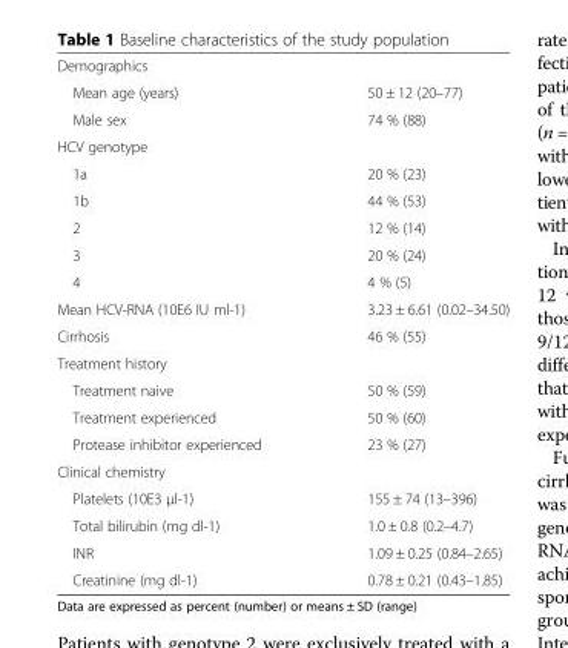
<table><tbody><tr><td colspan="2">Demographics</td></tr><tr><td>Mean age (years)</td><td>50 ± 12 (20–77)</td></tr><tr><td>Male sex</td><td>74 % (88)</td></tr><tr><td colspan="2">HCV genotype</td></tr><tr><td>1a</td><td>20 % (23)</td></tr><tr><td>1b</td><td>44 % (53)</td></tr><tr><td>2</td><td>12 % (14)</td></tr><tr><td>3</td><td>20 % (24)</td></tr><tr><td>4</td><td>4 % (5)</td></tr><tr><td>Mean HCV-RNA (10E6 IU ml-1)</td><td>3.23 ± 6.61 (0.02–34.50)</td></tr><tr><td>Cirrhosis</td><td>46 % (55)</td></tr><tr><td colspan="2">Treatment history</td></tr><tr><td>Treatment naive</td><td>50 % (59)</td></tr><tr><td>Treatment experienced</td><td>50 % (60)</td></tr><tr><td>Protease inhibitor experienced</td><td>23 % (27)</td></tr><tr><td colspan="2">Clinical chemistry</td></tr><tr><td>Platelets (10E3 μl-1)</td><td>155 ± 74 (13–396)</td></tr><tr><td>Total bilirubin (mg dl-1)</td><td>1.0 ± 0.8 (0.2–4.7)</td></tr><tr><td>INR</td><td>1.09 ± 0.25 (0.84–2.65)</td></tr><tr><td>Creatinine (mg dl-1)</td><td>0.78 ± 0.21 (0.43–1.85)</td></tr></tbody></table>